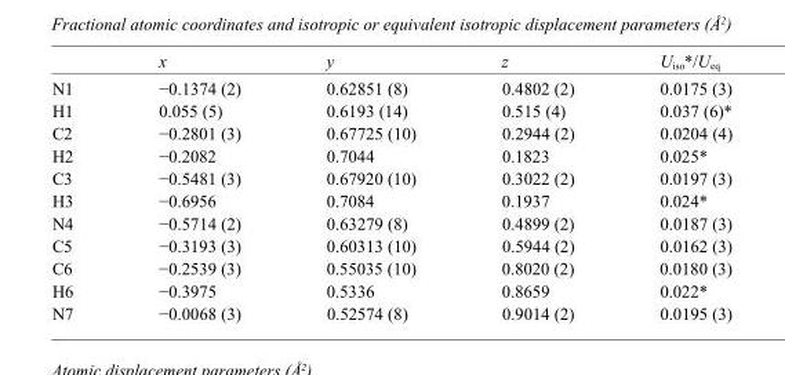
<table><thead><tr><td></td><td>x</td><td>y</td><td>z</td><td>U<sub>iso</sub>*/U<sub>eq</sub></td></tr></thead><tbody><tr><td>N1</td><td>−0.1374 (2)</td><td>0.62851 (8)</td><td>0.4802 (2)</td><td>0.0175 (3)</td></tr><tr><td>H1</td><td>0.055 (5)</td><td>0.6193 (14)</td><td>0.515 (4)</td><td>0.037 (6)*</td></tr><tr><td>C2</td><td>−0.2801 (3)</td><td>0.67725 (10)</td><td>0.2944 (2)</td><td>0.0204 (4)</td></tr><tr><td>H2</td><td>−0.2082</td><td>0.7044</td><td>0.1823</td><td>0.025*</td></tr><tr><td>C3</td><td>−0.5481 (3)</td><td>0.67920 (10)</td><td>0.3022 (2)</td><td>0.0197 (3)</td></tr><tr><td>H3</td><td>−0.6956</td><td>0.7084</td><td>0.1937</td><td>0.024*</td></tr><tr><td>N4</td><td>−0.5714 (2)</td><td>0.63279 (8)</td><td>0.4899 (2)</td><td>0.0187 (3)</td></tr><tr><td>C5</td><td>−0.3193 (3)</td><td>0.60313 (10)</td><td>0.5944 (2)</td><td>0.0162 (3)</td></tr><tr><td>C6</td><td>−0.2539 (3)</td><td>0.55035 (10)</td><td>0.8020 (2)</td><td>0.0180 (3)</td></tr><tr><td>H6</td><td>−0.3975</td><td>0.5336</td><td>0.8659</td><td>0.022*</td></tr><tr><td>N7</td><td>−0.0068 (3)</td><td>0.52574 (8)</td><td>0.9014 (2)</td><td>0.0195 (3)</td></tr></tbody></table>